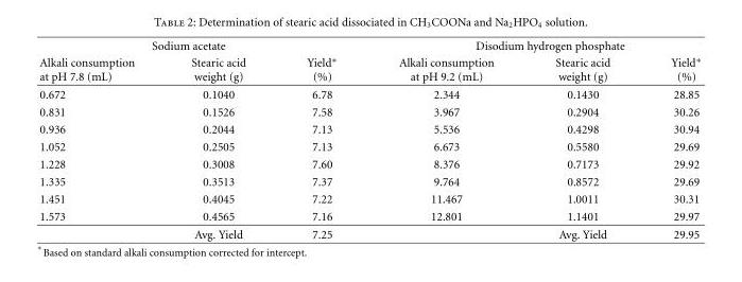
<table><thead><tr><td rowspan="2">Alkali consumption at pH 7.8 (mL)</td><td rowspan="2">Sodium acetate Stearic acid weight (g)</td><td rowspan="2">Yield∗ (%)</td><td colspan="3">Disodium hydrogen phosphate</td></tr><tr><td>Alkali consumption at pH 9.2 (mL)</td><td>Stearic acid weight (g)</td><td>Yield∗ (%)</td></tr></thead><tbody><tr><td>0.672</td><td>0.1040</td><td>6.78</td><td>2.344</td><td>0.1430</td><td>28.85</td></tr><tr><td>0.831</td><td>0.1526</td><td>7.58</td><td>3.967</td><td>0.2904</td><td>30.26</td></tr><tr><td>0.936</td><td>0.2044</td><td>7.13</td><td>5.536</td><td>0.4298</td><td>30.94</td></tr><tr><td>1.052</td><td>0.2505</td><td>7.13</td><td>6.673</td><td>0.5580</td><td>29.69</td></tr><tr><td>1.228</td><td>0.3008</td><td>7.60</td><td>8.376</td><td>0.7173</td><td>29.92</td></tr><tr><td>1.335</td><td>0.3513</td><td>7.37</td><td>9.764</td><td>0.8572</td><td>29.69</td></tr><tr><td>1.451</td><td>0.4045</td><td>7.22</td><td>11.467</td><td>1.0011</td><td>30.31</td></tr><tr><td rowspan="2">1.573</td><td>0.4565</td><td>7.16</td><td>12.801</td><td>1.1401</td><td>29.97</td></tr><tr><td>Avg. Yield</td><td>7.25</td><td></td><td>Avg. Yield</td><td>29.95</td></tr></tbody></table>